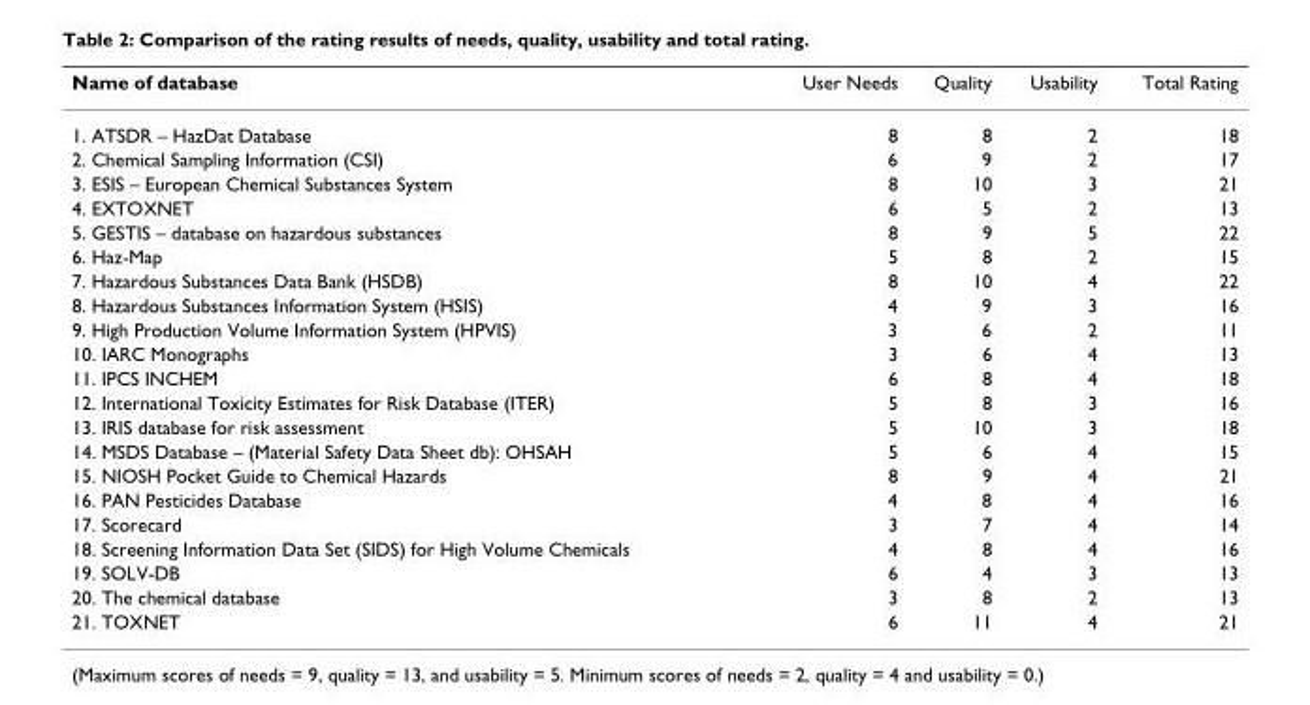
<table><thead><tr><td>Name of database</td><td>User Needs</td><td>Quality</td><td>Usability</td><td>Total Rating</td></tr></thead><tbody><tr><td>1. ATSDR – HazDat Database</td><td>8</td><td>8</td><td>2</td><td>18</td></tr><tr><td>2. Chemical Sampling Information (CSI)</td><td>6</td><td>9</td><td>2</td><td>17</td></tr><tr><td>3. ESIS – European Chemical Substances System</td><td>8</td><td>10</td><td>3</td><td>21</td></tr><tr><td>4. EXTOXNET</td><td>6</td><td>5</td><td>2</td><td>13</td></tr><tr><td>5. GESTIS – database on hazardous substances</td><td>8</td><td>9</td><td>5</td><td>22</td></tr><tr><td>6. Haz-Map</td><td>5</td><td>8</td><td>2</td><td>15</td></tr><tr><td>7. Hazardous Substances Data Bank (HSDB)</td><td>8</td><td>10</td><td>4</td><td>22</td></tr><tr><td>8. Hazardous Substances Information System (HSIS)</td><td>4</td><td>9</td><td>3</td><td>16</td></tr><tr><td>9. High Production Volume Information System (HPVIS)</td><td>3</td><td>6</td><td>2</td><td>11</td></tr><tr><td>10. IARC Monographs</td><td>3</td><td>6</td><td>4</td><td>13</td></tr><tr><td>11. IPCS INCHEM</td><td>6</td><td>8</td><td>4</td><td>18</td></tr><tr><td>12. International Toxicity Estimates for Risk Database (ITER)</td><td>5</td><td>8</td><td>3</td><td>16</td></tr><tr><td>13. IRIS database for risk assessment</td><td>5</td><td>10</td><td>3</td><td>18</td></tr><tr><td>14. MSDS Database – (Material Safety Data Sheet db): OHSAH</td><td>5</td><td>6</td><td>4</td><td>15</td></tr><tr><td>15. NIOSH Pocket Guide to Chemical Hazards</td><td>8</td><td>9</td><td>4</td><td>21</td></tr><tr><td>16. PAN Pesticides Database</td><td>4</td><td>8</td><td>4</td><td>16</td></tr><tr><td>17. Scorecard</td><td>3</td><td>7</td><td>4</td><td>14</td></tr><tr><td>18. Screening Information Data Set (SIDS) for High Volume Chemicals</td><td>4</td><td>8</td><td>4</td><td>16</td></tr><tr><td>19. SOLV-DB</td><td>6</td><td>4</td><td>3</td><td>13</td></tr><tr><td>20. The chemical database</td><td>3</td><td>8</td><td>2</td><td>13</td></tr><tr><td>21. TOXNET</td><td>6</td><td>11</td><td>4</td><td>21</td></tr></tbody></table>